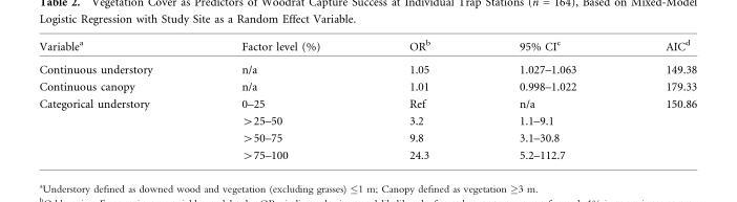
<table><thead><tr><td>Variable<sup>a</sup></td><td>Factor level (%)</td><td>OR<sup>b</sup></td><td>95% CI<sup>c</sup></td><td>AIC<sup>d</sup></td></tr></thead><tbody><tr><td>Continuous understory</td><td>n/a</td><td>1.05</td><td>1.027–1.063</td><td>149.38</td></tr><tr><td>Continuous canopy</td><td>n/a</td><td>1.01</td><td>0.998–1.022</td><td>179.33</td></tr><tr><td rowspan="4">Categorical understory</td><td>0–25</td><td>Ref</td><td>n/a</td><td>150.86</td></tr><tr><td>&gt;25–50</td><td>3.2</td><td>1.1–9.1</td><td></td></tr><tr><td>&gt;50–75</td><td>9.8</td><td>3.1–30.8</td><td></td></tr><tr><td>&gt;75–100</td><td>24.3</td><td>5.2–112.7</td><td></td></tr></tbody></table>